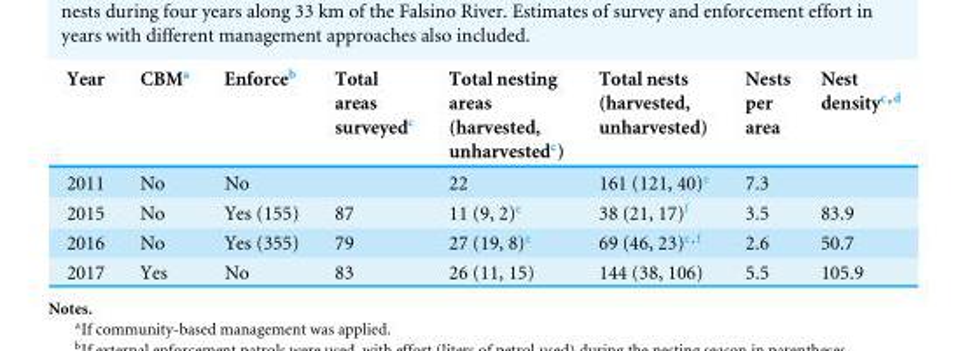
<table><thead><tr><td>Year</td><td>CBM<sup>a</sup></td><td>Enforce<sup>b</sup></td><td>Total areas surveyed<sup>c</sup></td><td>Total nesting areas (harvested, unharvested<sup>c</sup>)</td><td>Total nests (harvested, unharvested)</td><td>Nests per area</td><td>Nest density<sup>c,d</sup></td></tr></thead><tbody><tr><td>2011</td><td>No</td><td>No</td><td></td><td>22</td><td>161 (121, 40)<sup>e</sup></td><td>7.3</td><td></td></tr><tr><td>2015</td><td>No</td><td>Yes (155)</td><td>87</td><td>11 (9, 2)<sup>e</sup></td><td>38 (21, 17)<sup>f</sup></td><td>3.5</td><td>83.9</td></tr><tr><td>2016</td><td>No</td><td>Yes (355)</td><td>79</td><td>27 (19, 8)<sup>e</sup></td><td>69 (46, 23)<sup>e,f</sup></td><td>2.6</td><td>50.7</td></tr><tr><td>2017</td><td>Yes</td><td>No</td><td>83</td><td>26 (11, 15)</td><td>144 (38, 106)</td><td>5.5</td><td>105.9</td></tr></tbody></table>